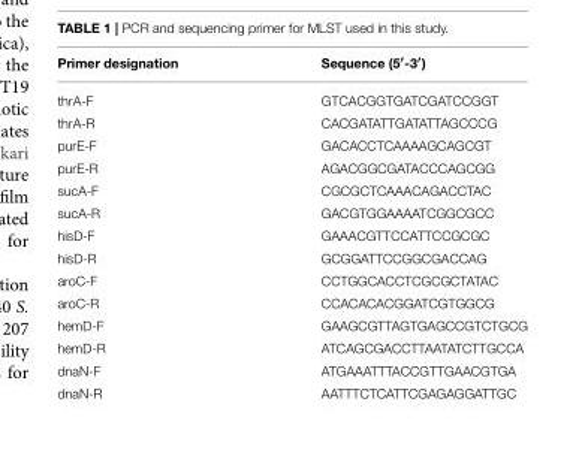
<table><thead><tr><td>Primer designation</td><td>Sequence (5′-3′)</td></tr></thead><tbody><tr><td>thrA-F</td><td>GTCACGGTGATCGATCCGGT</td></tr><tr><td>thrA-R</td><td>CACGATATTGATATTAGCCCG</td></tr><tr><td>purE-F</td><td>GACACCTCAAAAGCAGCGT</td></tr><tr><td>purE-R</td><td>AGACGGCGATACCCAGCGG</td></tr><tr><td>sucA-F</td><td>CGCGCTCAAACAGACCTAC</td></tr><tr><td>sucA-R</td><td>GACGTGGAAAATCGGCGCC</td></tr><tr><td>hisD-F</td><td>GAAACGTTCCATTCCGCGC</td></tr><tr><td>hisD-R</td><td>GCGGATTCCGGCGACCAG</td></tr><tr><td>aroC-F</td><td>CCTGGCACCTCGCGCTATAC</td></tr><tr><td>aroC-R</td><td>CCACACACGGATCGTGGCG</td></tr><tr><td>hemD-F</td><td>GAAGCGTTAGTGAGCCGTCTGCG</td></tr><tr><td>hemD-R</td><td>ATCAGCGACCTTAATATCTTGCCA</td></tr><tr><td>dnaN-F</td><td>ATGAAATTTACCGTTGAACGTGA</td></tr><tr><td>dnaN-R</td><td>AATTTCTCATTCGAGAGGATTGC</td></tr></tbody></table>